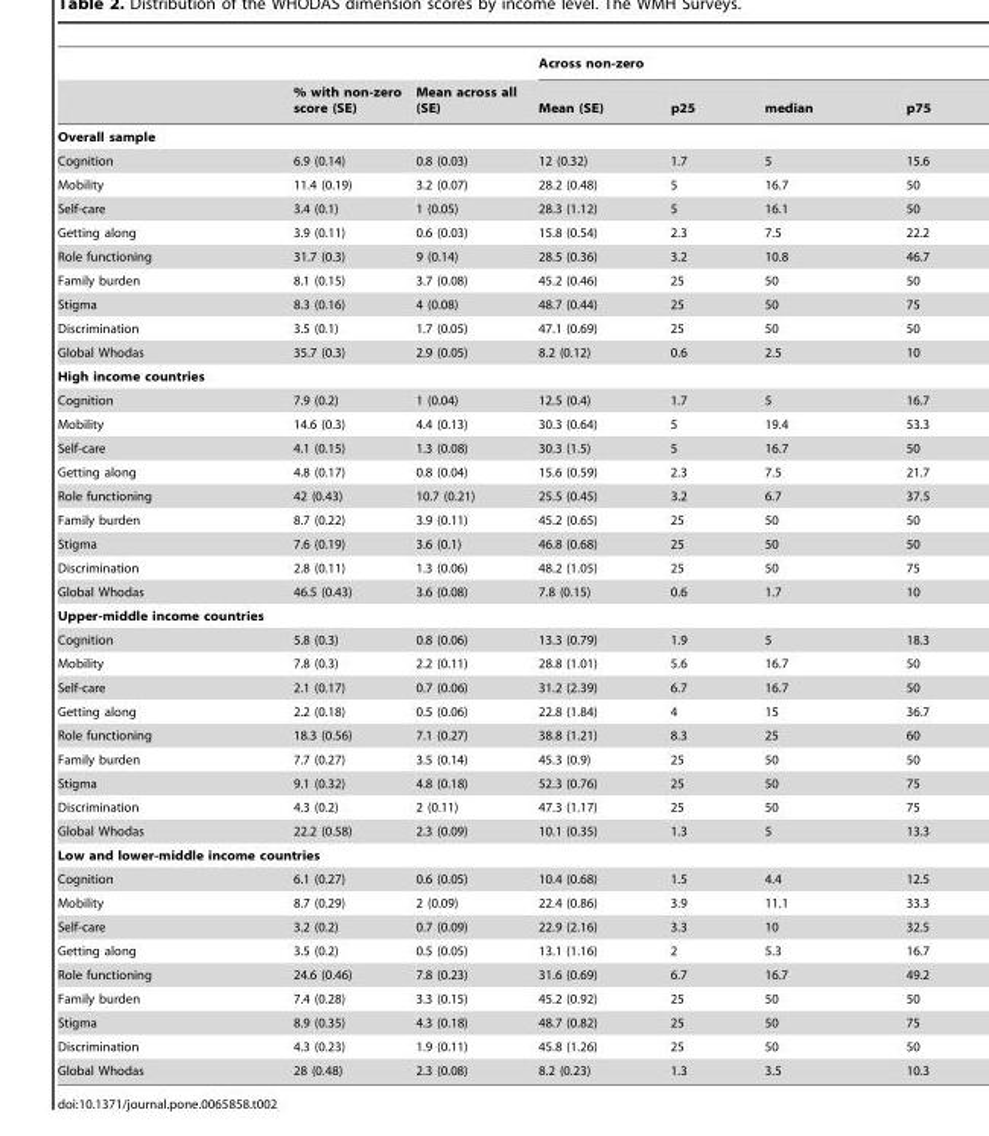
<table><thead><tr><td rowspan="2"></td><td rowspan="2">% with non-zero score (SE)</td><td rowspan="2">Mean across all (SE)</td><td colspan="4">Across non-zero</td></tr><tr><td>Mean (SE)</td><td>p25</td><td>median</td><td>p75</td></tr></thead><tbody><tr><td colspan="7">Overall sample</td></tr><tr><td>Cognition</td><td>6.9 (0.14)</td><td>0.8 (0.03)</td><td>12 (0.32)</td><td>1.7</td><td>5</td><td>15.6</td></tr><tr><td>Mobility</td><td>11.4 (0.19)</td><td>3.2 (0.07)</td><td>28.2 (0.48)</td><td>5</td><td>16.7</td><td>50</td></tr><tr><td>Self-care</td><td>3.4 (0.1)</td><td>1 (0.05)</td><td>28.3 (1.12)</td><td>5</td><td>16.1</td><td>50</td></tr><tr><td>Getting along</td><td>3.9 (0.11)</td><td>0.6 (0.03)</td><td>15.8 (0.54)</td><td>2.3</td><td>7.5</td><td>22.2</td></tr><tr><td>Role functioning</td><td>31.7 (0.3)</td><td>9 (0.14)</td><td>28.5 (0.36)</td><td>3.2</td><td>10.8</td><td>46.7</td></tr><tr><td>Family burden</td><td>8.1 (0.15)</td><td>3.7 (0.08)</td><td>45.2 (0.46)</td><td>25</td><td>50</td><td>50</td></tr><tr><td>Stigma</td><td>8.3 (0.16)</td><td>4 (0.08)</td><td>48.7 (0.44)</td><td>25</td><td>50</td><td>75</td></tr><tr><td>Discrimination</td><td>3.5 (0.1)</td><td>1.7 (0.05)</td><td>47.1 (0.69)</td><td>25</td><td>50</td><td>50</td></tr><tr><td>Global Whodas</td><td>35.7 (0.3)</td><td>2.9 (0.05)</td><td>8.2 (0.12)</td><td>0.6</td><td>2.5</td><td>10</td></tr><tr><td colspan="7">High income countries</td></tr><tr><td>Cognition</td><td>7.9 (0.2)</td><td>1 (0.04)</td><td>12.5 (0.4)</td><td>1.7</td><td>5</td><td>16.7</td></tr><tr><td>Mobility</td><td>14.6 (0.3)</td><td>4.4 (0.13)</td><td>30.3 (0.64)</td><td>5</td><td>19.4</td><td>53.3</td></tr><tr><td>Self-care</td><td>4.1 (0.15)</td><td>1.3 (0.08)</td><td>30.3 (1.5)</td><td>5</td><td>16.7</td><td>50</td></tr><tr><td>Getting along</td><td>4.8 (0.17)</td><td>0.8 (0.04)</td><td>15.6 (0.59)</td><td>2.3</td><td>7.5</td><td>21.7</td></tr><tr><td>Role functioning</td><td>42 (0.43)</td><td>10.7 (0.21)</td><td>25.5 (0.45)</td><td>3.2</td><td>6.7</td><td>37.5</td></tr><tr><td>Family burden</td><td>8.7 (0.22)</td><td>3.9 (0.11)</td><td>45.2 (0.65)</td><td>25</td><td>50</td><td>50</td></tr><tr><td>Stigma</td><td>7.6 (0.19)</td><td>3.6 (0.1)</td><td>46.8 (0.68)</td><td>25</td><td>50</td><td>50</td></tr><tr><td>Discrimination</td><td>2.8 (0.11)</td><td>1.3 (0.06)</td><td>48.2 (1.05)</td><td>25</td><td>50</td><td>75</td></tr><tr><td>Global Whodas</td><td>46.5 (0.43)</td><td>3.6 (0.08)</td><td>7.8 (0.15)</td><td>0.6</td><td>1.7</td><td>10</td></tr><tr><td colspan="7">Upper-middle income countries</td></tr><tr><td>Cognition</td><td>5.8 (0.3)</td><td>0.8 (0.06)</td><td>13.3 (0.79)</td><td>1.9</td><td>5</td><td>18.3</td></tr><tr><td>Mobility</td><td>7.8 (0.3)</td><td>2.2 (0.11)</td><td>28.8 (1.01)</td><td>5.6</td><td>16.7</td><td>50</td></tr><tr><td>Self-care</td><td>2.1 (0.17)</td><td>0.7 (0.06)</td><td>31.2 (2.39)</td><td>6.7</td><td>16.7</td><td>50</td></tr><tr><td>Getting along</td><td>2.2 (0.18)</td><td>0.5 (0.06)</td><td>22.8 (1.84)</td><td>4</td><td>15</td><td>36.7</td></tr><tr><td>Role functioning</td><td>18.3 (0.56)</td><td>7.1 (0.27)</td><td>38.8 (1.21)</td><td>8.3</td><td>25</td><td>60</td></tr><tr><td>Family burden</td><td>7.7 (0.27)</td><td>3.5 (0.14)</td><td>45.3 (0.9)</td><td>25</td><td>50</td><td>50</td></tr><tr><td>Stigma</td><td>9.1 (0.32)</td><td>4.8 (0.18)</td><td>52.3 (0.76)</td><td>25</td><td>50</td><td>75</td></tr><tr><td>Discrimination</td><td>4.3 (0.2)</td><td>2 (0.11)</td><td>47.3 (1.17)</td><td>25</td><td>50</td><td>75</td></tr><tr><td>Global Whodas</td><td>22.2 (0.58)</td><td>2.3 (0.09)</td><td>10.1 (0.35)</td><td>1.3</td><td>5</td><td>13.3</td></tr><tr><td colspan="7">Low and lower-middle income countries</td></tr><tr><td>Cognition</td><td>6.1 (0.27)</td><td>0.6 (0.05)</td><td>10.4 (0.68)</td><td>1.5</td><td>4.4</td><td>12.5</td></tr><tr><td>Mobility</td><td>8.7 (0.29)</td><td>2 (0.09)</td><td>22.4 (0.86)</td><td>3.9</td><td>11.1</td><td>33.3</td></tr><tr><td>Self-care</td><td>3.2 (0.2)</td><td>0.7 (0.09)</td><td>22.9 (2.16)</td><td>3.3</td><td>10</td><td>32.5</td></tr><tr><td>Getting along</td><td>3.5 (0.2)</td><td>0.5 (0.05)</td><td>13.1 (1.16)</td><td>2</td><td>5.3</td><td>16.7</td></tr><tr><td>Role functioning</td><td>24.6 (0.46)</td><td>7.8 (0.23)</td><td>31.6 (0.69)</td><td>6.7</td><td>16.7</td><td>49.2</td></tr><tr><td>Family burden</td><td>7.4 (0.28)</td><td>3.3 (0.15)</td><td>45.2 (0.92)</td><td>25</td><td>50</td><td>50</td></tr><tr><td>Stigma</td><td>8.9 (0.35)</td><td>4.3 (0.18)</td><td>48.7 (0.82)</td><td>25</td><td>50</td><td>75</td></tr><tr><td>Discrimination</td><td>4.3 (0.23)</td><td>1.9 (0.11)</td><td>45.8 (1.26)</td><td>25</td><td>50</td><td>50</td></tr><tr><td>Global Whodas</td><td>28 (0.48)</td><td>2.3 (0.08)</td><td>8.2 (0.23)</td><td>1.3</td><td>3.5</td><td>10.3</td></tr></tbody></table>